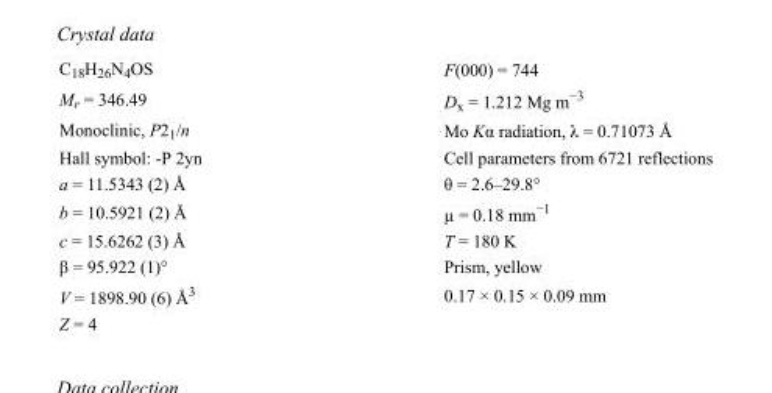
<table><tbody><tr><td>C<sub>18</sub>H<sub>26</sub>N<sub>4</sub>OS</td><td>F(000) = 744</td></tr><tr><td>M<sub>r</sub> = 346.49</td><td>D<sub>x</sub> = 1.212 Mg m<sup>−3</sup></td></tr><tr><td>Monoclinic, P2<sub>1</sub>/n</td><td>Mo Kα radiation, λ = 0.71073 Å</td></tr><tr><td>Hall symbol: -P 2yn</td><td>Cell parameters from 6721 reflections</td></tr><tr><td>a = 11.5343 (2) Å</td><td>θ = 2.6–29.8°</td></tr><tr><td>b = 10.5921 (2) Å</td><td>µ = 0.18 mm<sup>−1</sup></td></tr><tr><td>c = 15.6262 (3) Å</td><td>T = 180 K</td></tr><tr><td>β = 95.922 (1)°</td><td>Prism, yellow</td></tr><tr><td>V = 1898.90 (6) Å<sup>3</sup></td><td>0.17 × 0.15 × 0.09 mm</td></tr><tr><td>Z = 4</td><td></td></tr></tbody></table>